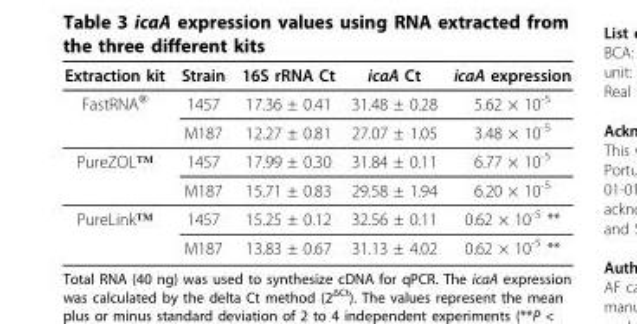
<table><thead><tr><td>Extraction kit</td><td>Strain</td><td>16S rRNA Ct</td><td>icaA Ct</td><td>icaA expression</td></tr></thead><tbody><tr><td rowspan="2">FastRNA<sup>®</sup></td><td>1457</td><td>17.36 ± 0.41</td><td>31.48 ± 0.28</td><td>5.62 × 10<sup>-5</sup></td></tr><tr><td>M187</td><td>12.27 ± 0.81</td><td>27.07 ± 1.05</td><td>3.48 × 10<sup>-5</sup></td></tr><tr><td rowspan="2">PureZOL™</td><td>1457</td><td>17.99 ± 0.30</td><td>31.84 ± 0.11</td><td>6.77 × 10<sup>-5</sup></td></tr><tr><td>M187</td><td>15.71 ± 0.83</td><td>29.58 ± 1.94</td><td>6.20 × 10<sup>-5</sup></td></tr><tr><td rowspan="2">PureLink™</td><td>1457</td><td>15.25 ± 0.12</td><td>32.56 ± 0.11</td><td>0.62 × 10<sup>-5</sup> **</td></tr><tr><td>M187</td><td>13.83 ± 0.67</td><td>31.13 ± 4.02</td><td>0.62 × 10<sup>-5</sup> **</td></tr></tbody></table>